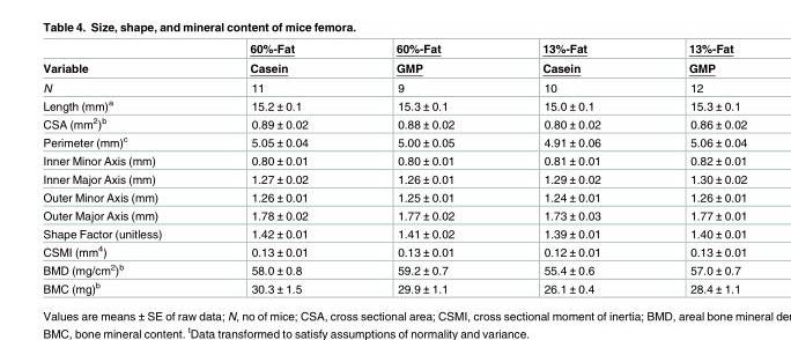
<table><thead><tr><td rowspan="2">Variable</td><td rowspan="2">60%-Fat Casein</td><td rowspan="2">60%-Fat GMP</td><td rowspan="2">13%-Fat Casein</td><td rowspan="2">13%-Fat GMP</td></tr><tr></tr></thead><tbody><tr><td>N</td><td>11</td><td>9</td><td>10</td><td>12</td></tr><tr><td>Length (mm)<sup>a</sup></td><td>15.2 ± 0.1</td><td>15.3 ± 0.1</td><td>15.0 ± 0.1</td><td>15.3 ± 0.1</td></tr><tr><td>CSA (mm<sup>2</sup>)<sup>b</sup></td><td>0.89 ± 0.02</td><td>0.88 ± 0.02</td><td>0.80 ± 0.02</td><td>0.86 ± 0.02</td></tr><tr><td>Perimeter (mm)<sup>c</sup></td><td>5.05 ± 0.04</td><td>5.00 ± 0.05</td><td>4.91 ± 0.06</td><td>5.06 ± 0.04</td></tr><tr><td>Inner Minor Axis (mm)</td><td>0.80 ± 0.01</td><td>0.80 ± 0.01</td><td>0.81 ± 0.01</td><td>0.82 ± 0.01</td></tr><tr><td>Inner Major Axis (mm)</td><td>1.27 ± 0.02</td><td>1.26 ± 0.01</td><td>1.29 ± 0.02</td><td>1.30 ± 0.02</td></tr><tr><td>Outer Minor Axis (mm)</td><td>1.26 ± 0.01</td><td>1.25 ± 0.01</td><td>1.24 ± 0.01</td><td>1.26 ± 0.01</td></tr><tr><td>Outer Major Axis (mm)</td><td>1.78 ± 0.02</td><td>1.77 ± 0.02</td><td>1.73 ± 0.03</td><td>1.77 ± 0.01</td></tr><tr><td>Shape Factor (unitless)</td><td>1.42 ± 0.01</td><td>1.41 ± 0.02</td><td>1.39 ± 0.01</td><td>1.40 ± 0.01</td></tr><tr><td>CSMI (mm<sup>4</sup>)</td><td>0.13 ± 0.01</td><td>0.13 ± 0.01</td><td>0.12 ± 0.01</td><td>0.13 ± 0.01</td></tr><tr><td>BMD (mg/cm<sup>2</sup>)<sup>b</sup></td><td>58.0 ± 0.8</td><td>59.2 ± 0.7</td><td>55.4 ± 0.6</td><td>57.0 ± 0.7</td></tr><tr><td>BMC (mg)<sup>b</sup></td><td>30.3 ± 1.5</td><td>29.9 ± 1.1</td><td>26.1 ± 0.4</td><td>28.4 ± 1.1</td></tr></tbody></table>